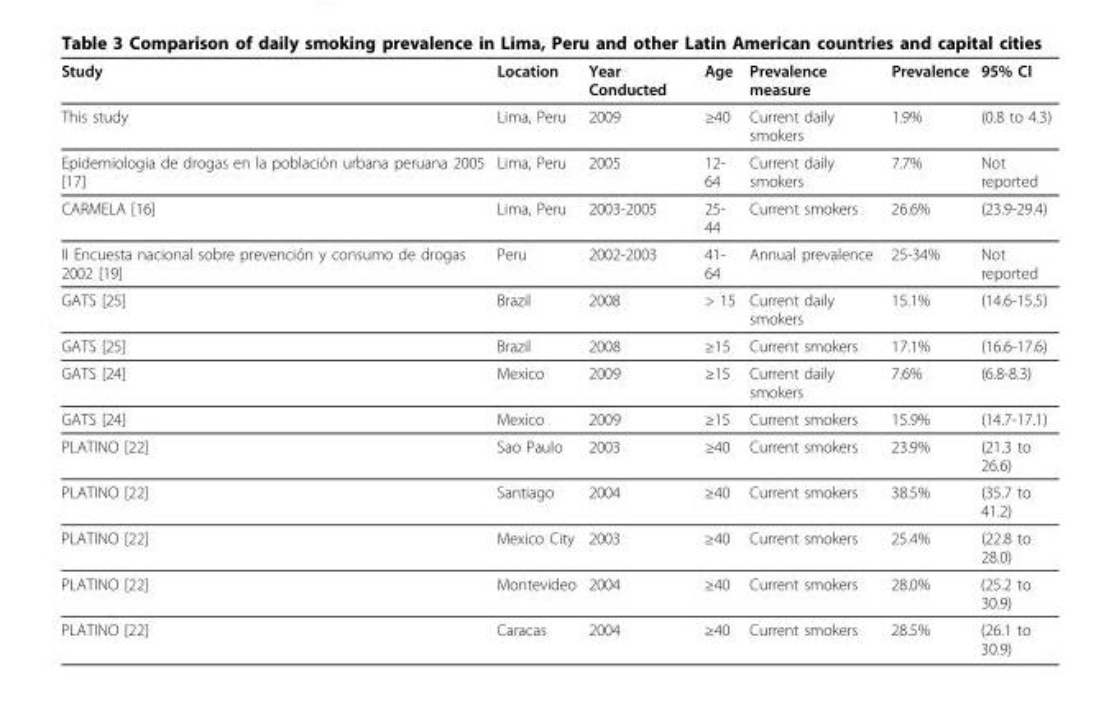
<table><thead><tr><td>Study</td><td>Location</td><td>Year Conducted</td><td>Age</td><td>Prevalence measure</td><td>Prevalence</td><td>95% CI</td></tr></thead><tbody><tr><td>This study</td><td>Lima, Peru</td><td>2009</td><td>≥40</td><td>Current daily smokers</td><td>1.9%</td><td>(0.8 to 4.3)</td></tr><tr><td>Epidemiologia de drogas en la población urbana peruana 2005 [17]</td><td>Lima, Peru</td><td>2005</td><td>12- 64</td><td>Current daily smokers</td><td>7.7%</td><td>Not reported</td></tr><tr><td>CARMELA [16]</td><td>Lima, Peru</td><td>2003-2005</td><td>25- 44</td><td>Current smokers</td><td>26.6%</td><td>(23.9-29.4)</td></tr><tr><td>II Encuesta nacional sobre prevención y consumo de drogas 2002 [19]</td><td>Peru</td><td>2002-2003</td><td>41- 64</td><td>Annual prevalence</td><td>25-34%</td><td>Not reported</td></tr><tr><td>GATS [25]</td><td>Brazil</td><td>2008</td><td>&gt; 15</td><td>Current daily smokers</td><td>15.1%</td><td>(14.6-15.5)</td></tr><tr><td>GATS [25]</td><td>Brazil</td><td>2008</td><td>≥15</td><td>Current smokers</td><td>17.1%</td><td>(16.6-17.6)</td></tr><tr><td>GATS [24]</td><td>Mexico</td><td>2009</td><td>≥15</td><td>Current daily smokers</td><td>7.6%</td><td>(6.8-8.3)</td></tr><tr><td>GATS [24]</td><td>Mexico</td><td>2009</td><td>≥15</td><td>Current smokers</td><td>15.9%</td><td>(14.7-17.1)</td></tr><tr><td>PLATINO [22]</td><td>Sao Paulo</td><td>2003</td><td>≥40</td><td>Current smokers</td><td>23.9%</td><td>(21.3 to 26.6)</td></tr><tr><td>PLATINO [22]</td><td>Santiago</td><td>2004</td><td>≥40</td><td>Current smokers</td><td>38.5%</td><td>(35.7 to 41.2)</td></tr><tr><td>PLATINO [22]</td><td>Mexico City</td><td>2003</td><td>≥40</td><td>Current smokers</td><td>25.4%</td><td>(22.8 to 28.0)</td></tr><tr><td>PLATINO [22]</td><td>Montevideo</td><td>2004</td><td>≥40</td><td>Current smokers</td><td>28.0%</td><td>(25.2 to 30.9)</td></tr><tr><td>PLATINO [22]</td><td>Caracas</td><td>2004</td><td>≥40</td><td>Current smokers</td><td>28.5%</td><td>(26.1 to 30.9)</td></tr></tbody></table>